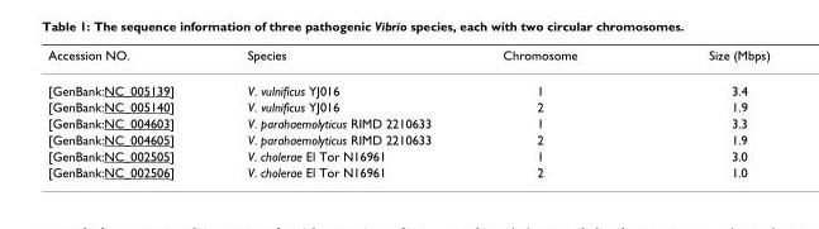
<table><thead><tr><td>Accession NO.</td><td>Species</td><td>Chromosome</td><td>Size (Mbps)</td></tr></thead><tbody><tr><td>[GenBank:NC_005139]</td><td>V. vulnificus YJ016</td><td>1</td><td>3.4</td></tr><tr><td>[GenBank:NC_005140]</td><td>V. vulnificus YJ016</td><td>2</td><td>1.9</td></tr><tr><td>[GenBank:NC_004603]</td><td>V. parahaemolyticus RIMD 2210633</td><td>1</td><td>3.3</td></tr><tr><td>[GenBank:NC_004605]</td><td>V. parahaemolyticus RIMD 2210633</td><td>2</td><td>1.9</td></tr><tr><td>[GenBank:NC_002505]</td><td>V. cholerae El Tor N16961</td><td>1</td><td>3.0</td></tr><tr><td>[GenBank:NC_002506]</td><td>V. cholerae El Tor N16961</td><td>2</td><td>1.0</td></tr></tbody></table>